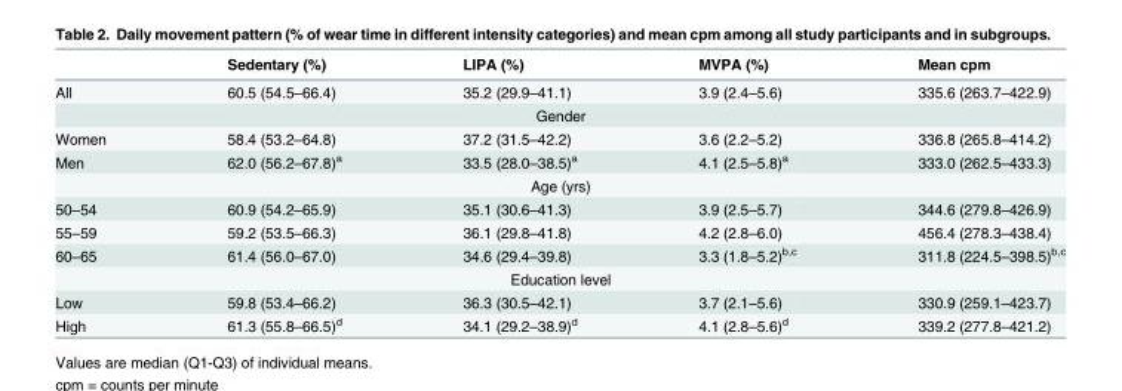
<table><thead><tr><td></td><td>Sedentary (%)</td><td>LIPA (%)</td><td>MVPA (%)</td><td>Mean cpm</td></tr></thead><tbody><tr><td>All</td><td>60.5 (54.5–66.4)</td><td>35.2 (29.9–41.1)</td><td>3.9 (2.4–5.6)</td><td>335.6 (263.7–422.9)</td></tr><tr><td colspan="5">Gender</td></tr><tr><td>Women</td><td>58.4 (53.2–64.8)</td><td>37.2 (31.5–42.2)</td><td>3.6 (2.2–5.2)</td><td>336.8 (265.8–414.2)</td></tr><tr><td>Men</td><td>62.0 (56.2–67.8)<sup>a</sup></td><td>33.5 (28.0–38.5)<sup>a</sup></td><td>4.1 (2.5–5.8)<sup>a</sup></td><td>333.0 (262.5–433.3)</td></tr><tr><td colspan="5">Age (yrs)</td></tr><tr><td>50–54</td><td>60.9 (54.2–65.9)</td><td>35.1 (30.6–41.3)</td><td>3.9 (2.5–5.7)</td><td>344.6 (279.8–426.9)</td></tr><tr><td>55–59</td><td>59.2 (53.5–66.3)</td><td>36.1 (29.8–41.8)</td><td>4.2 (2.8–6.0)</td><td>456.4 (278.3–438.4)</td></tr><tr><td>60–65</td><td>61.4 (56.0–67.0)</td><td>34.6 (29.4–39.8)</td><td>3.3 (1.8–5.2)<sup>b,c</sup></td><td>311.8 (224.5–398.5)<sup>b,c</sup></td></tr><tr><td colspan="5">Education level</td></tr><tr><td>Low</td><td>59.8 (53.4–66.2)</td><td>36.3 (30.5–42.1)</td><td>3.7 (2.1–5.6)</td><td>330.9 (259.1–423.7)</td></tr><tr><td>High</td><td>61.3 (55.8–66.5)<sup>d</sup></td><td>34.1 (29.2–38.9)<sup>d</sup></td><td>4.1 (2.8–5.6)<sup>d</sup></td><td>339.2 (277.8–421.2)</td></tr></tbody></table>